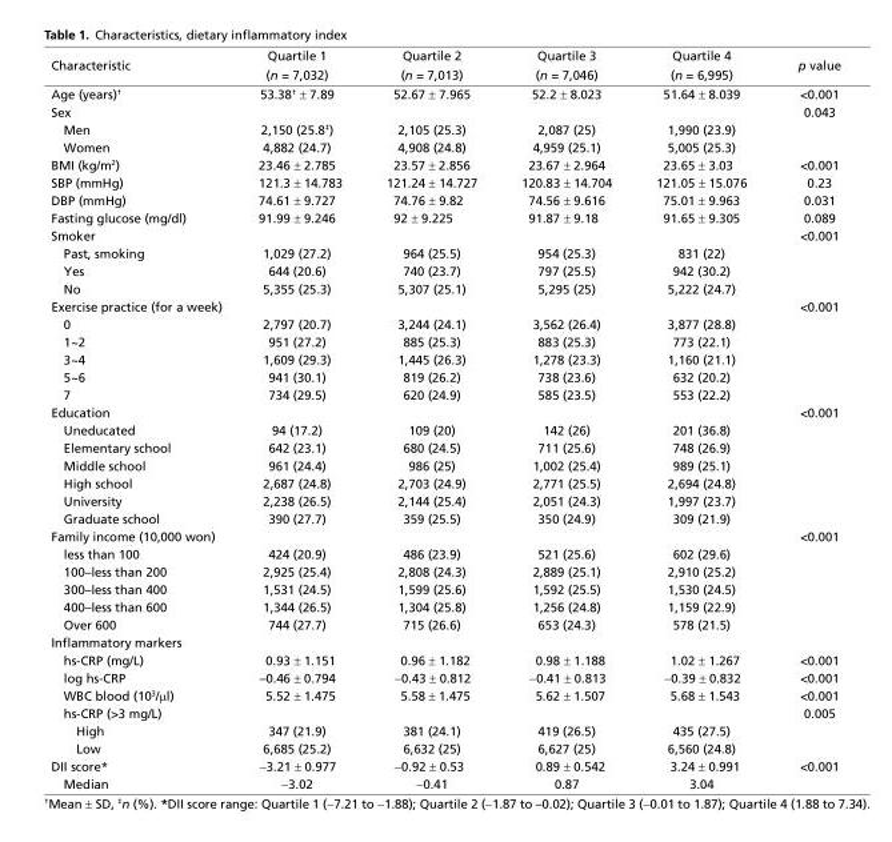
<table><thead><tr><td rowspan="2">Characteristic</td><td rowspan="2">Quartile 1 (n = 7,032)</td><td rowspan="2">Quartile 2 (n = 7,013)</td><td rowspan="2">Quartile 3 (n = 7,046)</td><td rowspan="2">Quartile 4 (n = 6,995)</td><td rowspan="2">p value</td></tr><tr></tr></thead><tbody><tr><td>Age (years)<sup>†</sup></td><td>53.38<sup>†</sup> ± 7.89</td><td>52.67 ± 7.965</td><td>52.2 ± 8.023</td><td>51.64 ± 8.039</td><td>&lt;0.001</td></tr><tr><td>Sex</td><td></td><td></td><td></td><td></td><td>0.043</td></tr><tr><td>Men</td><td>2,150 (25.8<sup>‡</sup>)</td><td>2,105 (25.3)</td><td>2,087 (25)</td><td>1,990 (23.9)</td><td></td></tr><tr><td>Women</td><td>4,882 (24.7)</td><td>4,908 (24.8)</td><td>4,959 (25.1)</td><td>5,005 (25.3)</td><td></td></tr><tr><td>BMI (kg/m<sup>2</sup>)</td><td>23.46 ± 2.785</td><td>23.57 ± 2.856</td><td>23.67 ± 2.964</td><td>23.65 ± 3.03</td><td>&lt;0.001</td></tr><tr><td>SBP (mmHg)</td><td>121.3 ± 14.783</td><td>121.24 ± 14.727</td><td>120.83 ± 14.704</td><td>121.05 ± 15.076</td><td>0.23</td></tr><tr><td>DBP (mmHg)</td><td>74.61 ± 9.727</td><td>74.76 ± 9.82</td><td>74.56 ± 9.616</td><td>75.01 ± 9.963</td><td>0.031</td></tr><tr><td>Fasting glucose (mg/dl)</td><td>91.99 ± 9.246</td><td>92 ± 9.225</td><td>91.87 ± 9.18</td><td>91.65 ± 9.305</td><td>0.089</td></tr><tr><td>Smoker</td><td></td><td></td><td></td><td></td><td>&lt;0.001</td></tr><tr><td>Past, smoking</td><td>1,029 (27.2)</td><td>964 (25.5)</td><td>954 (25.3)</td><td>831 (22)</td><td></td></tr><tr><td>Yes</td><td>644 (20.6)</td><td>740 (23.7)</td><td>797 (25.5)</td><td>942 (30.2)</td><td></td></tr><tr><td>No</td><td>5,355 (25.3)</td><td>5,307 (25.1)</td><td>5,295 (25)</td><td>5,222 (24.7)</td><td></td></tr><tr><td>Exercise practice (for a week)</td><td></td><td></td><td></td><td></td><td>&lt;0.001</td></tr><tr><td>0</td><td>2,797 (20.7)</td><td>3,244 (24.1)</td><td>3,562 (26.4)</td><td>3,877 (28.8)</td><td></td></tr><tr><td>1~2</td><td>951 (27.2)</td><td>885 (25.3)</td><td>883 (25.3)</td><td>773 (22.1)</td><td></td></tr><tr><td>3~4</td><td>1,609 (29.3)</td><td>1,445 (26.3)</td><td>1,278 (23.3)</td><td>1,160 (21.1)</td><td></td></tr><tr><td>5~6</td><td>941 (30.1)</td><td>819 (26.2)</td><td>738 (23.6)</td><td>632 (20.2)</td><td></td></tr><tr><td>7</td><td>734 (29.5)</td><td>620 (24.9)</td><td>585 (23.5)</td><td>553 (22.2)</td><td></td></tr><tr><td>Education</td><td></td><td></td><td></td><td></td><td>&lt;0.001</td></tr><tr><td>Uneducated</td><td>94 (17.2)</td><td>109 (20)</td><td>142 (26)</td><td>201 (36.8)</td><td></td></tr><tr><td>Elementary school</td><td>642 (23.1)</td><td>680 (24.5)</td><td>711 (25.6)</td><td>748 (26.9)</td><td></td></tr><tr><td>Middle school</td><td>961 (24.4)</td><td>986 (25)</td><td>1,002 (25.4)</td><td>989 (25.1)</td><td></td></tr><tr><td>High school</td><td>2,687 (24.8)</td><td>2,703 (24.9)</td><td>2,771 (25.5)</td><td>2,694 (24.8)</td><td></td></tr><tr><td>University</td><td>2,238 (26.5)</td><td>2,144 (25.4)</td><td>2,051 (24.3)</td><td>1,997 (23.7)</td><td></td></tr><tr><td>Graduate school</td><td>390 (27.7)</td><td>359 (25.5)</td><td>350 (24.9)</td><td>309 (21.9)</td><td></td></tr><tr><td>Family income (10,000 won)</td><td></td><td></td><td></td><td></td><td>&lt;0.001</td></tr><tr><td>less than 100</td><td>424 (20.9)</td><td>486 (23.9)</td><td>521 (25.6)</td><td>602 (29.6)</td><td></td></tr><tr><td>100–less than 200</td><td>2,925 (25.4)</td><td>2,808 (24.3)</td><td>2,889 (25.1)</td><td>2,910 (25.2)</td><td></td></tr><tr><td>300–less than 400</td><td>1,531 (24.5)</td><td>1,599 (25.6)</td><td>1,592 (25.5)</td><td>1,530 (24.5)</td><td></td></tr><tr><td>400–less than 600</td><td>1,344 (26.5)</td><td>1,304 (25.8)</td><td>1,256 (24.8)</td><td>1,159 (22.9)</td><td></td></tr><tr><td>Over 600</td><td>744 (27.7)</td><td>715 (26.6)</td><td>653 (24.3)</td><td>578 (21.5)</td><td></td></tr><tr><td colspan="6">Inflammatory markers</td></tr><tr><td>hs-CRP (mg/L)</td><td>0.93 ± 1.151</td><td>0.96 ± 1.182</td><td>0.98 ± 1.188</td><td>1.02 ± 1.267</td><td>&lt;0.001</td></tr><tr><td>log hs-CRP</td><td>–0.46 ± 0.794</td><td>−0.43 ± 0.812</td><td>−0.41 ± 0.813</td><td>−0.39 ± 0.832</td><td>&lt;0.001</td></tr><tr><td>WBC blood (10<sup>3</sup>/μl)</td><td>5.52 ± 1.475</td><td>5.58 ± 1.475</td><td>5.62 ± 1.507</td><td>5.68 ± 1.543</td><td>&lt;0.001</td></tr><tr><td>hs-CRP (&gt;3 mg/L)</td><td></td><td></td><td></td><td></td><td>0.005</td></tr><tr><td>High</td><td>347 (21.9)</td><td>381 (24.1)</td><td>419 (26.5)</td><td>435 (27.5)</td><td></td></tr><tr><td>Low</td><td>6,685 (25.2)</td><td>6,632 (25)</td><td>6,627 (25)</td><td>6,560 (24.8)</td><td></td></tr><tr><td>DII score*</td><td>−3.21 ± 0.977</td><td>−0.92 ± 0.53</td><td>0.89 ± 0.542</td><td>3.24 ± 0.991</td><td>&lt;0.001</td></tr><tr><td>Median</td><td>−3.02</td><td>−0.41</td><td>0.87</td><td>3.04</td><td></td></tr></tbody></table>